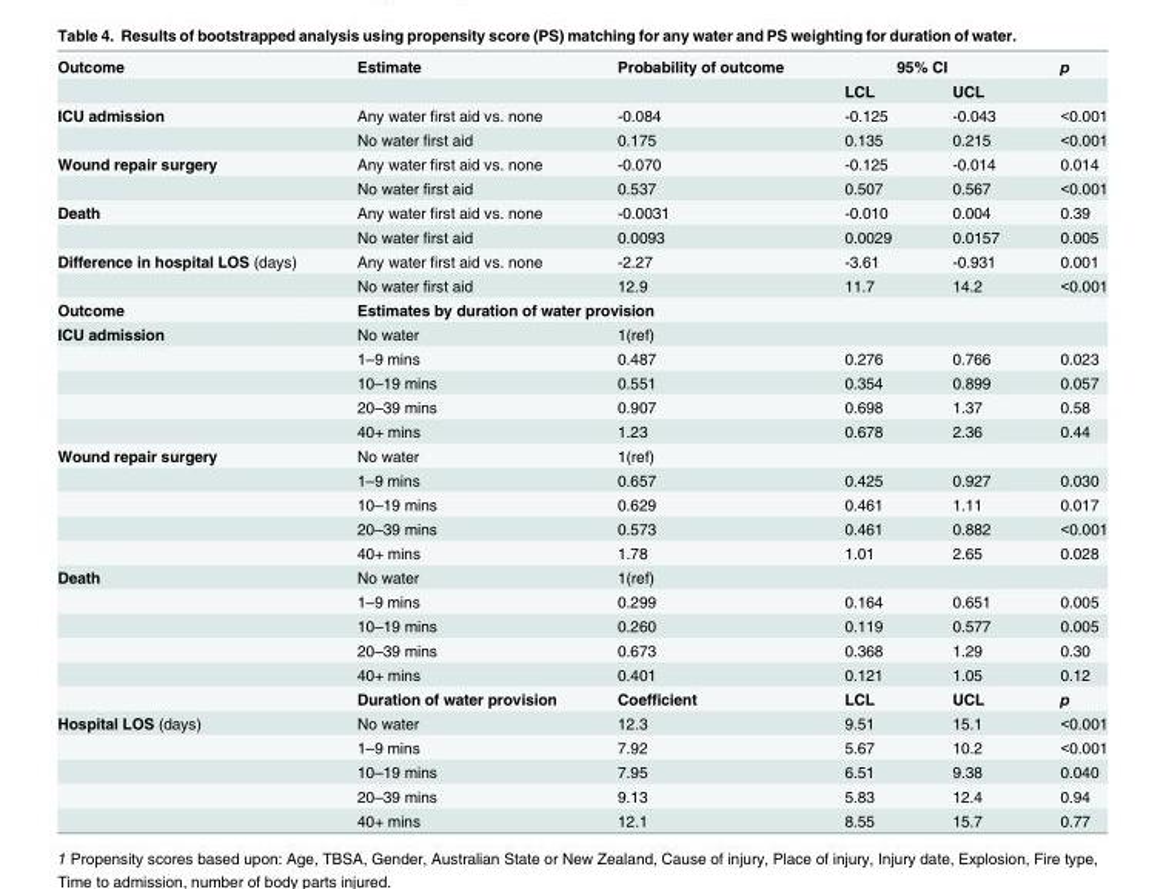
<table><tbody><tr><td rowspan="2">Outcome</td><td>Estimate</td><td>Probability of outcome</td><td colspan="2">95% CI</td><td>p</td></tr><tr><td></td><td></td><td>LCL</td><td>UCL</td><td></td></tr><tr><td rowspan="2">ICU admission</td><td>Any water first aid vs. none</td><td>-0.084</td><td>-0.125</td><td>-0.043</td><td>&lt;0.001</td></tr><tr><td>No water first aid</td><td>0.175</td><td>0.135</td><td>0.215</td><td>&lt;0.001</td></tr><tr><td rowspan="2">Wound repair surgery</td><td>Any water first aid vs. none</td><td>-0.070</td><td>-0.125</td><td>-0.014</td><td>0.014</td></tr><tr><td>No water first aid</td><td>0.537</td><td>0.507</td><td>0.567</td><td>&lt;0.001</td></tr><tr><td rowspan="2">Death</td><td>Any water first aid vs. none</td><td>-0.0031</td><td>-0.010</td><td>0.004</td><td>0.39</td></tr><tr><td>No water first aid</td><td>0.0093</td><td>0.0029</td><td>0.0157</td><td>0.005</td></tr><tr><td rowspan="2">Difference in hospital LOS (days)</td><td>Any water first aid vs. none</td><td>-2.27</td><td>-3.61</td><td>-0.931</td><td>0.001</td></tr><tr><td>No water first aid</td><td>12.9</td><td>11.7</td><td>14.2</td><td>&lt;0.001</td></tr><tr><td>Outcome</td><td colspan="5">Estimates by duration of water provision</td></tr><tr><td rowspan="5">ICU admission</td><td>No water</td><td colspan="4">1(ref)</td></tr><tr><td>1–9 mins</td><td>0.487</td><td>0.276</td><td>0.766</td><td>0.023</td></tr><tr><td>10–19 mins</td><td>0.551</td><td>0.354</td><td>0.899</td><td>0.057</td></tr><tr><td>20–39 mins</td><td>0.907</td><td>0.698</td><td>1.37</td><td>0.58</td></tr><tr><td>40+ mins</td><td>1.23</td><td>0.678</td><td>2.36</td><td>0.44</td></tr><tr><td rowspan="5">Wound repair surgery</td><td>No water</td><td colspan="4">1(ref)</td></tr><tr><td>1–9 mins</td><td>0.657</td><td>0.425</td><td>0.927</td><td>0.030</td></tr><tr><td>10–19 mins</td><td>0.629</td><td>0.461</td><td>1.11</td><td>0.017</td></tr><tr><td>20–39 mins</td><td>0.573</td><td>0.461</td><td>0.882</td><td>&lt;0.001</td></tr><tr><td>40+ mins</td><td>1.78</td><td>1.01</td><td>2.65</td><td>0.028</td></tr><tr><td rowspan="6">Death</td><td>No water</td><td>1(ref)</td><td></td><td></td><td></td></tr><tr><td>1–9 mins</td><td>0.299</td><td>0.164</td><td>0.651</td><td>0.005</td></tr><tr><td>10–19 mins</td><td>0.260</td><td>0.119</td><td>0.577</td><td>0.005</td></tr><tr><td>20–39 mins</td><td>0.673</td><td>0.368</td><td>1.29</td><td>0.30</td></tr><tr><td>40+ mins</td><td>0.401</td><td>0.121</td><td>1.05</td><td>0.12</td></tr><tr><td>Duration of water provision</td><td>Coefficient</td><td>LCL</td><td>UCL</td><td>p</td></tr><tr><td rowspan="5">Hospital LOS (days)</td><td>No water</td><td>12.3</td><td>9.51</td><td>15.1</td><td>&lt;0.001</td></tr><tr><td>1–9 mins</td><td>7.92</td><td>5.67</td><td>10.2</td><td>&lt;0.001</td></tr><tr><td>10–19 mins</td><td>7.95</td><td>6.51</td><td>9.38</td><td>0.040</td></tr><tr><td>20–39 mins</td><td>9.13</td><td>5.83</td><td>12.4</td><td>0.94</td></tr><tr><td>40+ mins</td><td>12.1</td><td>8.55</td><td>15.7</td><td>0.77</td></tr></tbody></table>